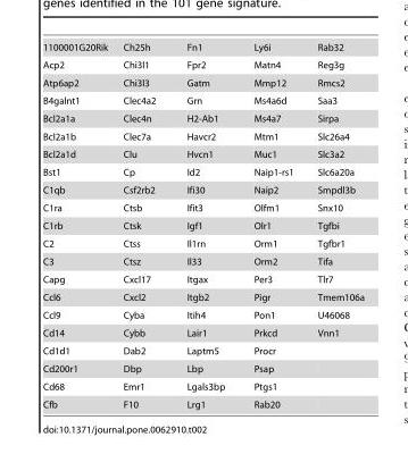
<table><tbody><tr><td>1100001G20Rik</td><td>Ch25h</td><td>Fn1</td><td>Ly6i</td><td>Rab32</td></tr><tr><td>Acp2</td><td>Chi3l1</td><td>Fpr2</td><td>Matn4</td><td>Reg3g</td></tr><tr><td>Atp6ap2</td><td>Chi3l3</td><td>Gatm</td><td>Mmp12</td><td>Rmcs2</td></tr><tr><td>B4galnt1</td><td>Clec4a2</td><td>Grn</td><td>Ms4a6d</td><td>Saa3</td></tr><tr><td>Bcl2a1a</td><td>Clec4n</td><td>H2-Ab1</td><td>Ms4a7</td><td>Sirpa</td></tr><tr><td>Bcl2a1b</td><td>Clec7a</td><td>Havcr2</td><td>Mtm1</td><td>Slc26a4</td></tr><tr><td>Bcl2a1d</td><td>Clu</td><td>Hvcn1</td><td>Muc1</td><td>Slc3a2</td></tr><tr><td>Bst1</td><td>Cp</td><td>Id2</td><td>Naip1-rs1</td><td>Slc6a20a</td></tr><tr><td>C1qb</td><td>Csf2rb2</td><td>Ifi30</td><td>Naip2</td><td>Smpdl3b</td></tr><tr><td>C1ra</td><td>Ctsb</td><td>Ifit3</td><td>Olfm1</td><td>Snx10</td></tr><tr><td>C1rb</td><td>Ctsk</td><td>Igf1</td><td>Olr1</td><td>Tgfbi</td></tr><tr><td>C2</td><td>Ctss</td><td>Il1rn</td><td>Orm1</td><td>Tgfbr1</td></tr><tr><td>C3</td><td>Ctsz</td><td>Il33</td><td>Orm2</td><td>Tifa</td></tr><tr><td>Capg</td><td>Cxcl17</td><td>Itgax</td><td>Per3</td><td>Tlr7</td></tr><tr><td>Ccl6</td><td>Cxcl2</td><td>Itgb2</td><td>Pigr</td><td>Tmem106a</td></tr><tr><td>Ccl9</td><td>Cyba</td><td>Itih4</td><td>Pon1</td><td>U46068</td></tr><tr><td>Cd14</td><td>Cybb</td><td>Lair1</td><td>Prkcd</td><td>Vnn1</td></tr><tr><td>Cd1d1</td><td>Dab2</td><td>Laptm5</td><td>Procr</td><td></td></tr><tr><td>Cd200r1</td><td>Dbp</td><td>Lbp</td><td>Psap</td><td></td></tr><tr><td>Cd68</td><td>Emr1</td><td>Lgals3bp</td><td>Ptgs1</td><td></td></tr><tr><td>Cfb</td><td>F10</td><td>Lrg1</td><td>Rab20</td><td></td></tr></tbody></table>